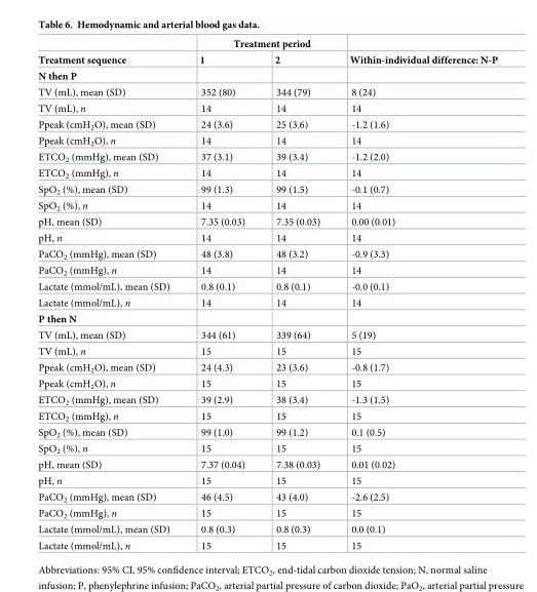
<table><thead><tr><td rowspan="2">Treatment sequence</td><td colspan="2">Treatment period</td><td rowspan="2">Within-individual difference: N-P</td></tr><tr><td>1</td><td>2</td></tr></thead><tbody><tr><td colspan="4">N then P</td></tr><tr><td>TV (mL), mean (SD)</td><td>352 (80)</td><td>344 (79)</td><td>8 (24)</td></tr><tr><td>TV (mL), n</td><td>14</td><td>14</td><td>14</td></tr><tr><td>Ppeak (cmH<sub>2</sub>O), mean (SD)</td><td>24 (3.6)</td><td>25 (3.6)</td><td>-1.2 (1.6)</td></tr><tr><td>Ppeak (cmH<sub>2</sub>O), n</td><td>14</td><td>14</td><td>14</td></tr><tr><td>ETCO<sub>2</sub> (mmHg), mean (SD)</td><td>37 (3.1)</td><td>39 (3.4)</td><td>-1.2 (2.0)</td></tr><tr><td>ETCO<sub>2</sub> (mmHg), n</td><td>14</td><td>14</td><td>14</td></tr><tr><td>SpO<sub>2</sub> (%), mean (SD)</td><td>99 (1.3)</td><td>99 (1.5)</td><td>-0.1 (0.7)</td></tr><tr><td>SpO<sub>2</sub> (%), n</td><td>14</td><td>14</td><td>14</td></tr><tr><td>pH, mean (SD)</td><td>7.35 (0.03)</td><td>7.35 (0.03)</td><td>0.00 (0.01)</td></tr><tr><td>pH, n</td><td>14</td><td>14</td><td>14</td></tr><tr><td>PaCO<sub>2</sub> (mmHg), mean (SD)</td><td>48 (3.8)</td><td>48 (3.2)</td><td>-0.9 (3.3)</td></tr><tr><td>PaCO<sub>2</sub> (mmHg), n</td><td>14</td><td>14</td><td>14</td></tr><tr><td>Lactate (mmol/mL), mean (SD)</td><td>0.8 (0.1)</td><td>0.8 (0.1)</td><td>-0.0 (0.1)</td></tr><tr><td>Lactate (mmol/mL), n</td><td>14</td><td>14</td><td>14</td></tr><tr><td colspan="4">P then N</td></tr><tr><td>TV (mL), mean (SD)</td><td>344 (61)</td><td>339 (64)</td><td>5 (19)</td></tr><tr><td>TV (mL), n</td><td>15</td><td>15</td><td>15</td></tr><tr><td>Ppeak (cmH<sub>2</sub>O), mean (SD)</td><td>24 (4.3)</td><td>23 (3.6)</td><td>-0.8 (1.7)</td></tr><tr><td>Ppeak (cmH<sub>2</sub>O), n</td><td>15</td><td>15</td><td>15</td></tr><tr><td>ETCO<sub>2</sub> (mmHg), mean (SD)</td><td>39 (2.9)</td><td>38 (3.4)</td><td>-1.3 (1.5)</td></tr><tr><td>ETCO<sub>2</sub> (mmHg), n</td><td>15</td><td>15</td><td>15</td></tr><tr><td>SpO<sub>2</sub> (%), mean (SD)</td><td>99 (1.0)</td><td>99 (1.2)</td><td>0.1 (0.5)</td></tr><tr><td>SpO<sub>2</sub> (%), n</td><td>15</td><td>15</td><td>15</td></tr><tr><td>pH, mean (SD)</td><td>7.37 (0.04)</td><td>7.38 (0.03)</td><td>0.01 (0.02)</td></tr><tr><td>pH, n</td><td>15</td><td>15</td><td>15</td></tr><tr><td>PaCO<sub>2</sub> (mmHg), mean (SD)</td><td>46 (4.5)</td><td>43 (4.0)</td><td>-2.6 (2.5)</td></tr><tr><td>PaCO<sub>2</sub> (mmHg), n</td><td>15</td><td>15</td><td>15</td></tr><tr><td>Lactate (mmol/mL), mean (SD)</td><td>0.8 (0.3)</td><td>0.8 (0.3)</td><td>0.0 (0.1)</td></tr><tr><td>Lactate (mmol/mL), n</td><td>15</td><td>15</td><td>15</td></tr></tbody></table>